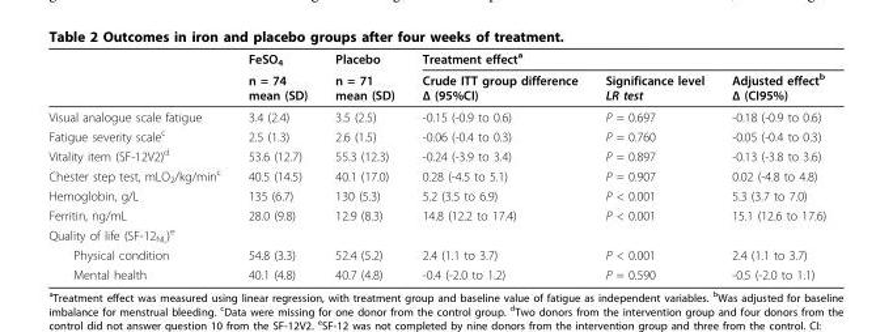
<table><thead><tr><td rowspan="2"></td><td rowspan="2">FeSO<sub>4</sub> n = 74 mean (SD)</td><td rowspan="2">Placebo n = 71 mean (SD)</td><td colspan="3">Treatment effect<sup>a</sup></td></tr><tr><td>Crude ITT group difference Δ (95%CI)</td><td>Significance level LR test</td><td>Adjusted effect<sup>b</sup> Δ (CI95%)</td></tr></thead><tbody><tr><td>Visual analogue scale fatigue</td><td>3.4 (2.4)</td><td>3.5 (2.5)</td><td>-0.15 (-0.9 to 0.6)</td><td>P = 0.697</td><td>-0.18 (-0.9 to 0.6)</td></tr><tr><td>Fatigue severity scale<sup>c</sup></td><td>2.5 (1.3)</td><td>2.6 (1.5)</td><td>-0.06 (-0.4 to 0.3)</td><td>P = 0.760</td><td>-0.05 (-0.4 to 0.3)</td></tr><tr><td>Vitality item (SF-12V2)<sup>d</sup></td><td>53.6 (12.7)</td><td>55.3 (12.3)</td><td>-0.24 (-3.9 to 3.4)</td><td>P = 0.897</td><td>-0.13 (-3.8 to 3.6)</td></tr><tr><td>Chester step test, mLO<sub>2</sub>/kg/min<sup>c</sup></td><td>40.5 (14.5)</td><td>40.1 (17.0)</td><td>0.28 (-4.5 to 5.1)</td><td>P = 0.907</td><td>0.02 (-4.8 to 4.8)</td></tr><tr><td>Hemoglobin, g/L</td><td>135 (6.7)</td><td>130 (5.3)</td><td>5.2 (3.5 to 6.9)</td><td>P &lt; 0.001</td><td>5.3 (3.7 to 7.0)</td></tr><tr><td>Ferritin, ng/mL</td><td>28.0 (9.8)</td><td>12.9 (8.3)</td><td>14.8 (12.2 to 17.4)</td><td>P &lt; 0.001</td><td>15.1 (12.6 to 17.6)</td></tr><tr><td colspan="6">Quality of life (SF-12<sub>NL</sub>)<sup>e</sup></td></tr><tr><td>Physical condition</td><td>54.8 (3.3)</td><td>52.4 (5.2)</td><td>2.4 (1.1 to 3.7)</td><td>P &lt; 0.001</td><td>2.4 (1.1 to 3.7)</td></tr><tr><td>Mental health</td><td>40.1 (4.8)</td><td>40.7 (4.8)</td><td>-0.4 (-2.0 to 1.2)</td><td>P = 0.590</td><td>-0.5 (-2.0 to 1.1)</td></tr></tbody></table>